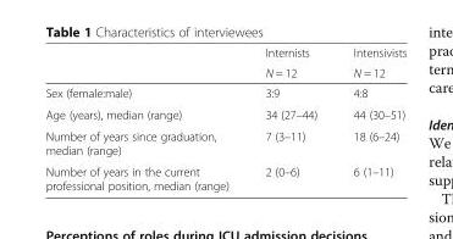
<table><thead><tr><td rowspan="2"></td><td rowspan="2">Internists N = 12</td><td rowspan="2">Intensivists N = 12</td></tr><tr></tr></thead><tbody><tr><td>Sex (female:male)</td><td>3:9</td><td>4:8</td></tr><tr><td>Age (years), median (range)</td><td>34 (27–44)</td><td>44 (30–51)</td></tr><tr><td>Number of years since graduation, median (range)</td><td>7 (3–11)</td><td>18 (6–24)</td></tr><tr><td>Number of years in the current professional position, median (range)</td><td>2 (0–6)</td><td>6 (1–11)</td></tr></tbody></table>